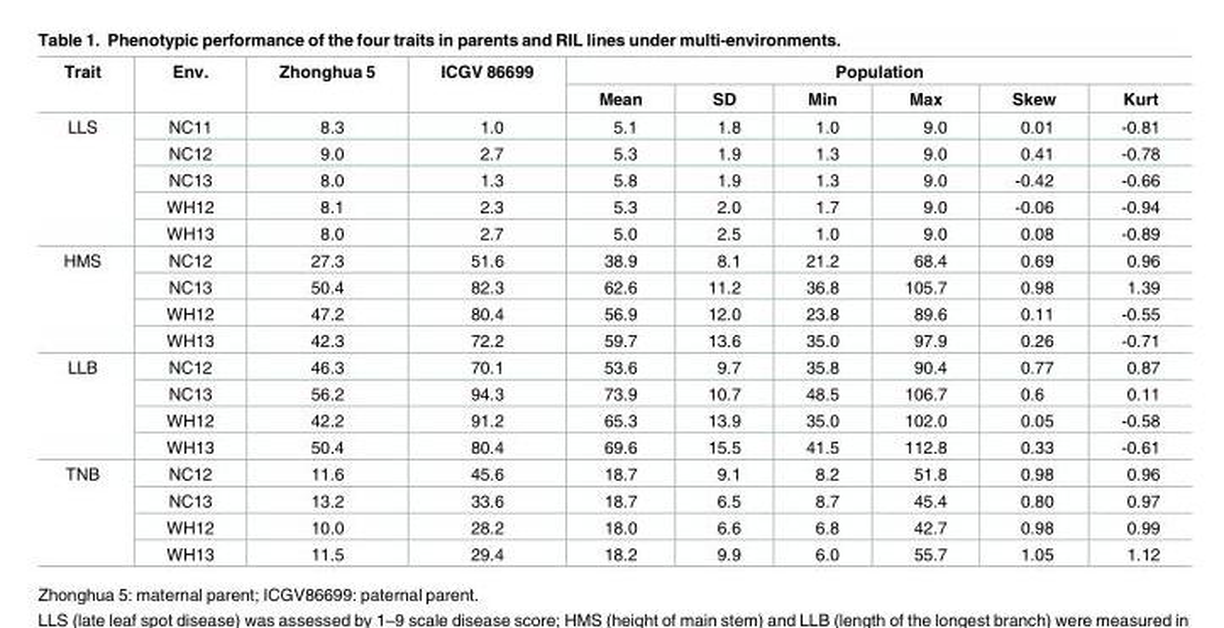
<table><thead><tr><td rowspan="2">Trait</td><td rowspan="2">Env.</td><td rowspan="2">Zhonghua 5</td><td rowspan="2">ICGV 86699</td><td colspan="6">Population</td></tr><tr><td>Mean</td><td>SD</td><td>Min</td><td>Max</td><td>Skew</td><td>Kurt</td></tr></thead><tbody><tr><td rowspan="5">LLS</td><td>NC11</td><td>8.3</td><td>1.0</td><td>5.1</td><td>1.8</td><td>1.0</td><td>9.0</td><td>0.01</td><td>-0.81</td></tr><tr><td>NC12</td><td>9.0</td><td>2.7</td><td>5.3</td><td>1.9</td><td>1.3</td><td>9.0</td><td>0.41</td><td>-0.78</td></tr><tr><td>NC13</td><td>8.0</td><td>1.3</td><td>5.8</td><td>1.9</td><td>1.3</td><td>9.0</td><td>-0.42</td><td>-0.66</td></tr><tr><td>WH12</td><td>8.1</td><td>2.3</td><td>5.3</td><td>2.0</td><td>1.7</td><td>9.0</td><td>-0.06</td><td>-0.94</td></tr><tr><td>WH13</td><td>8.0</td><td>2.7</td><td>5.0</td><td>2.5</td><td>1.0</td><td>9.0</td><td>0.08</td><td>-0.89</td></tr><tr><td rowspan="4">HMS</td><td>NC12</td><td>27.3</td><td>51.6</td><td>38.9</td><td>8.1</td><td>21.2</td><td>68.4</td><td>0.69</td><td>0.96</td></tr><tr><td>NC13</td><td>50.4</td><td>82.3</td><td>62.6</td><td>11.2</td><td>36.8</td><td>105.7</td><td>0.98</td><td>1.39</td></tr><tr><td>WH12</td><td>47.2</td><td>80.4</td><td>56.9</td><td>12.0</td><td>23.8</td><td>89.6</td><td>0.11</td><td>-0.55</td></tr><tr><td>WH13</td><td>42.3</td><td>72.2</td><td>59.7</td><td>13.6</td><td>35.0</td><td>97.9</td><td>0.26</td><td>-0.71</td></tr><tr><td rowspan="4">LLB</td><td>NC12</td><td>46.3</td><td>70.1</td><td>53.6</td><td>9.7</td><td>35.8</td><td>90.4</td><td>0.77</td><td>0.87</td></tr><tr><td>NC13</td><td>56.2</td><td>94.3</td><td>73.9</td><td>10.7</td><td>48.5</td><td>106.7</td><td>0.6</td><td>0.11</td></tr><tr><td>WH12</td><td>42.2</td><td>91.2</td><td>65.3</td><td>13.9</td><td>35.0</td><td>102.0</td><td>0.05</td><td>-0.58</td></tr><tr><td>WH13</td><td>50.4</td><td>80.4</td><td>69.6</td><td>15.5</td><td>41.5</td><td>112.8</td><td>0.33</td><td>-0.61</td></tr><tr><td rowspan="4">TNB</td><td>NC12</td><td>11.6</td><td>45.6</td><td>18.7</td><td>9.1</td><td>8.2</td><td>51.8</td><td>0.98</td><td>0.96</td></tr><tr><td>NC13</td><td>13.2</td><td>33.6</td><td>18.7</td><td>6.5</td><td>8.7</td><td>45.4</td><td>0.80</td><td>0.97</td></tr><tr><td>WH12</td><td>10.0</td><td>28.2</td><td>18.0</td><td>6.6</td><td>6.8</td><td>42.7</td><td>0.98</td><td>0.99</td></tr><tr><td>WH13</td><td>11.5</td><td>29.4</td><td>18.2</td><td>9.9</td><td>6.0</td><td>55.7</td><td>1.05</td><td>1.12</td></tr></tbody></table>